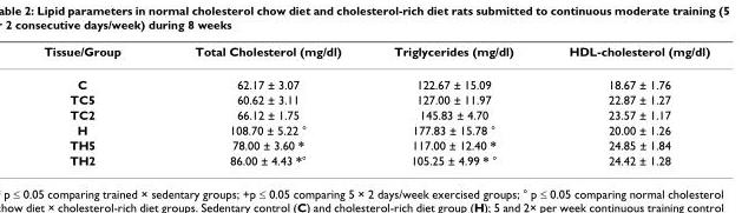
<table><thead><tr><td>Tissue/Group</td><td>Total Cholesterol (mg/dl)</td><td>Triglycerides (mg/dl)</td><td>HDL-cholesterol (mg/dl)</td></tr></thead><tbody><tr><td>C</td><td>62.17 ± 3.07</td><td>122.67 ± 15.09</td><td>18.67 ± 1.76</td></tr><tr><td>TC5</td><td>60.62 ± 3.11</td><td>127.00 ± 11.97</td><td>22.87 ± 1.27</td></tr><tr><td>TC2</td><td>66.12 ± 1.75</td><td>145.83 ± 4.70</td><td>23.57 ± 1.17</td></tr><tr><td>H</td><td>108.70 ± 5.22 °</td><td>177.83 ± 15.78 °</td><td>20.00 ± 1.26</td></tr><tr><td>TH5</td><td>78.00 ± 3.60 *</td><td>117.00 ± 12.40 *</td><td>24.85 ± 1.84</td></tr><tr><td>TH2</td><td>86.00 ± 4.43 *°</td><td>105.25 ± 4.99 * °</td><td>24.42 ± 1.28</td></tr></tbody></table>